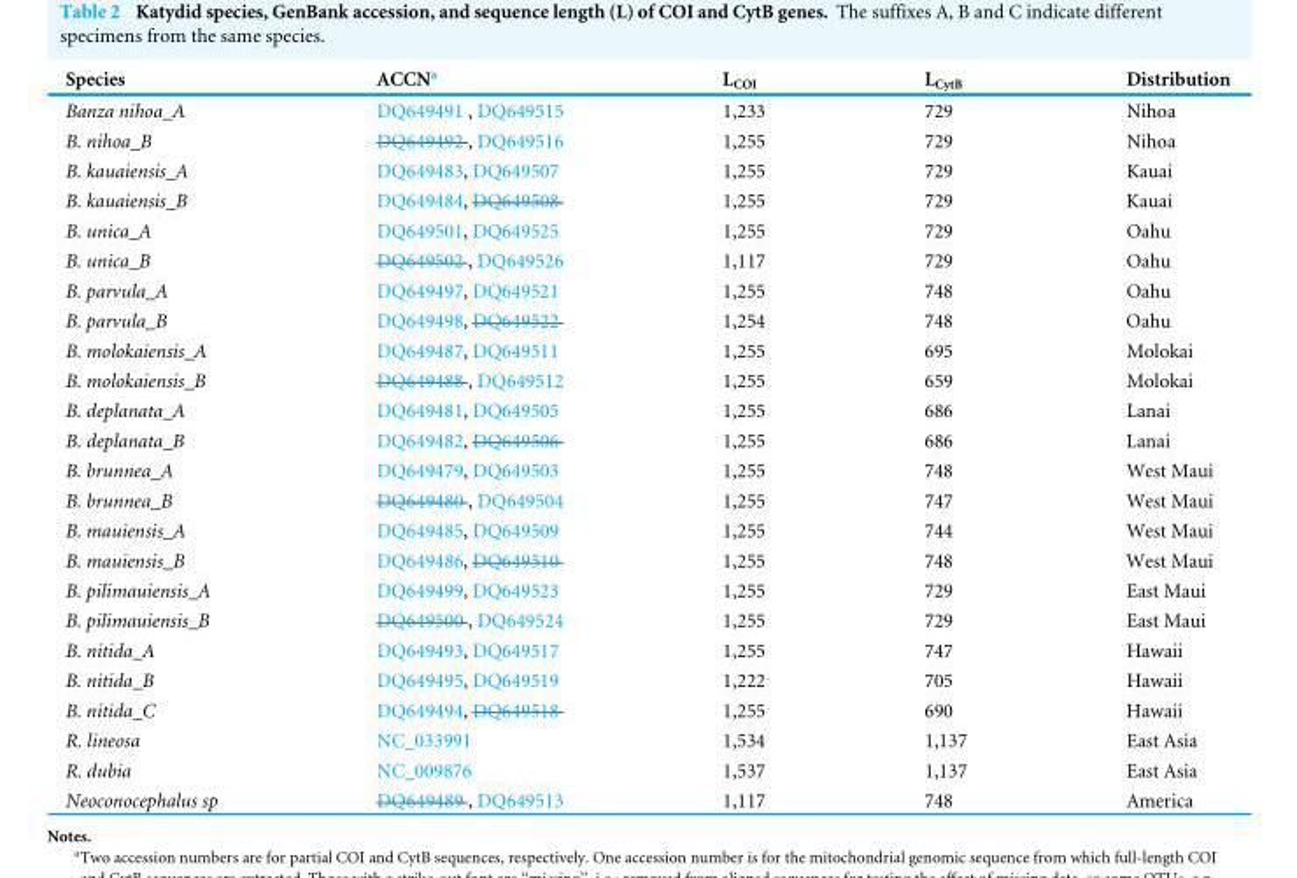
<table><thead><tr><td>Species</td><td>ACCN<sup>a</sup></td><td>L<sub>COI</sub></td><td>L<sub>CytB</sub></td><td>Distribution</td></tr></thead><tbody><tr><td>Banza nihoa_A</td><td>DQ649491 , DQ649515</td><td>1,233</td><td>729</td><td>Nihoa</td></tr><tr><td>B. nihoa_B</td><td>DQ649492 , DQ649516</td><td>1,255</td><td>729</td><td>Nihoa</td></tr><tr><td>B. kauaiensis_A</td><td>DQ649483, DQ649507</td><td>1,255</td><td>729</td><td>Kauai</td></tr><tr><td>B. kauaiensis_B</td><td>DQ649484, DQ649508</td><td>1,255</td><td>729</td><td>Kauai</td></tr><tr><td>B. unica_A</td><td>DQ649501, DQ649525</td><td>1,255</td><td>729</td><td>Oahu</td></tr><tr><td>B. unica_B</td><td>DQ649502 , DQ649526</td><td>1,117</td><td>729</td><td>Oahu</td></tr><tr><td>B. parvula_A</td><td>DQ649497, DQ649521</td><td>1,255</td><td>748</td><td>Oahu</td></tr><tr><td>B. parvula_B</td><td>DQ649498, DQ649522</td><td>1,254</td><td>748</td><td>Oahu</td></tr><tr><td>B. molokaiensis_A</td><td>DQ649487, DQ649511</td><td>1,255</td><td>695</td><td>Molokai</td></tr><tr><td>B. molokaiensis_B</td><td>DQ649488 , DQ649512</td><td>1,255</td><td>659</td><td>Molokai</td></tr><tr><td>B. deplanata_A</td><td>DQ649481, DQ649505</td><td>1,255</td><td>686</td><td>Lanai</td></tr><tr><td>B. deplanata_B</td><td>DQ649482, DQ649506</td><td>1,255</td><td>686</td><td>Lanai</td></tr><tr><td>B. brunnea_A</td><td>DQ649479, DQ649503</td><td>1,255</td><td>748</td><td>West Maui</td></tr><tr><td>B. brunnea_B</td><td>DQ649480 , DQ649504</td><td>1,255</td><td>747</td><td>West Maui</td></tr><tr><td>B. mauiensis_A</td><td>DQ649485, DQ649509</td><td>1,255</td><td>744</td><td>West Maui</td></tr><tr><td>B. mauiensis_B</td><td>DQ649486, DQ649510</td><td>1,255</td><td>748</td><td>West Maui</td></tr><tr><td>B. pilimauiensis_A</td><td>DQ649499, DQ649523</td><td>1,255</td><td>729</td><td>East Maui</td></tr><tr><td>B. pilimauiensis_B</td><td>DQ649500 , DQ649524</td><td>1,255</td><td>729</td><td>East Maui</td></tr><tr><td>B. nitida_A</td><td>DQ649493, DQ649517</td><td>1,255</td><td>747</td><td>Hawaii</td></tr><tr><td>B. nitida_B</td><td>DQ649495, DQ649519</td><td>1,222</td><td>705</td><td>Hawaii</td></tr><tr><td>B. nitida_C</td><td>DQ649494, DQ649518</td><td>1,255</td><td>690</td><td>Hawaii</td></tr><tr><td>R. lineosa</td><td>NC_033991</td><td>1,534</td><td>1,137</td><td>East Asia</td></tr><tr><td>R. dubia</td><td>NC_009876</td><td>1,537</td><td>1,137</td><td>East Asia</td></tr><tr><td>Neoconocephalus sp</td><td>DQ649489 , DQ649513</td><td>1,117</td><td>748</td><td>America</td></tr></tbody></table>